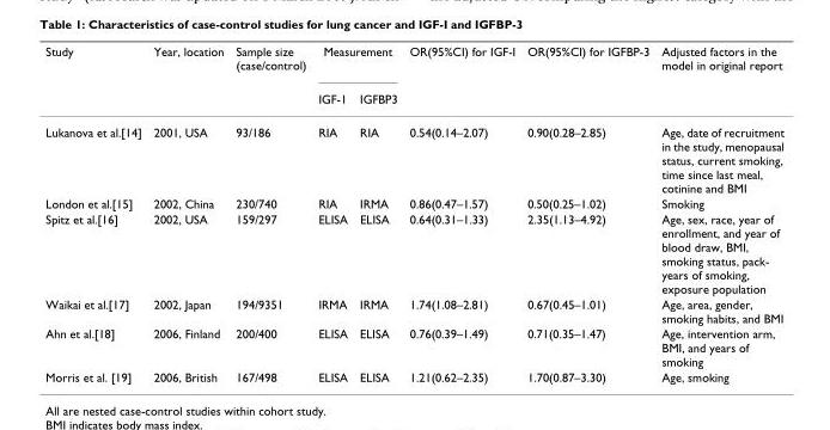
<table><thead><tr><td rowspan="2">Study</td><td rowspan="2">Year, location</td><td rowspan="2">Sample size (case/control)</td><td colspan="2">Measurement</td><td rowspan="2">OR(95%CI) for IGF-I</td><td rowspan="2">OR(95%CI) for IGFBP-3</td><td rowspan="2">Adjusted factors in the model in original report</td></tr><tr><td>IGF-1</td><td>IGFBP3</td></tr></thead><tbody><tr><td>Lukanova et al.[14]</td><td>2001, USA</td><td>93/186</td><td>RIA</td><td>RIA</td><td>0.54(0.14–2.07)</td><td>0.90(0.28–2.85)</td><td>Age, date of recruitment in the study, menopausal status, current smoking, time since last meal, cotinine and BMI</td></tr><tr><td>London et al.[15]</td><td>2002, China</td><td>230/740</td><td>RIA</td><td>IRMA</td><td>0.86(0.47–1.57)</td><td>0.50(0.25–1.02)</td><td>Smoking</td></tr><tr><td>Spitz et al.[16]</td><td>2002, USA</td><td>159/297</td><td>ELISA</td><td>ELISA</td><td>0.64(0.31–1.33)</td><td>2.35(1.13–4.92)</td><td>Age, sex, race, year of enrollment, and year of blood draw, BMI, smoking status, pack- years of smoking, exposure population</td></tr><tr><td>Waikai et al.[17]</td><td>2002, Japan</td><td>194/9351</td><td>IRMA</td><td>IRMA</td><td>1.74(1.08–2.81)</td><td>0.67(0.45–1.01)</td><td>Age, area, gender, smoking habits, and BMI</td></tr><tr><td>Ahn et al.[18]</td><td>2006, Finland</td><td>200/400</td><td>ELISA</td><td>ELISA</td><td>0.76(0.39–1.49)</td><td>0.71(0.35–1.47)</td><td>Age, intervention arm, BMI, and years of smoking</td></tr><tr><td>Morris et al. [19]</td><td>2006, British</td><td>167/498</td><td>ELISA</td><td>ELISA</td><td>1.21(0.62–2.35)</td><td>1.70(0.87–3.30)</td><td>Age, smoking</td></tr></tbody></table>